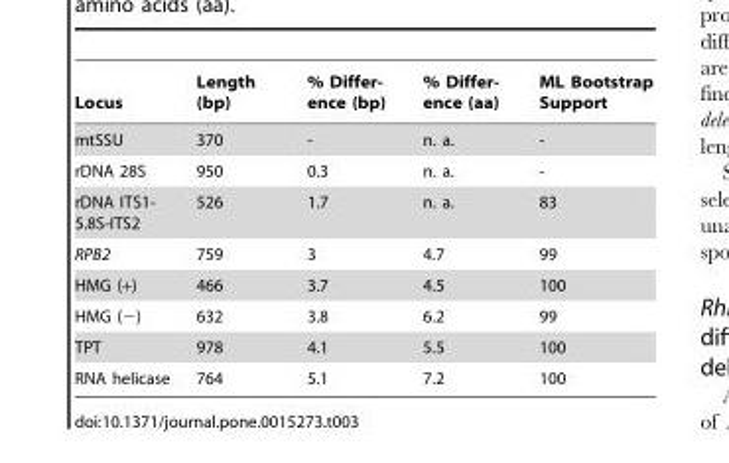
<table><thead><tr><td>Locus</td><td>Length (bp)</td><td>% Differ- ence (bp)</td><td>% Differ- ence (aa)</td><td>ML Bootstrap Support</td></tr></thead><tbody><tr><td>mtSSU</td><td>370</td><td>-</td><td>n. a.</td><td>-</td></tr><tr><td>rDNA 28S</td><td>950</td><td>0.3</td><td>n. a.</td><td>-</td></tr><tr><td>rDNA ITS1- 5.8S-ITS2</td><td>526</td><td>1.7</td><td>n. a.</td><td>83</td></tr><tr><td>RPB2</td><td>759</td><td>3</td><td>4.7</td><td>99</td></tr><tr><td>HMG (+)</td><td>466</td><td>3.7</td><td>4.5</td><td>100</td></tr><tr><td>HMG (−)</td><td>632</td><td>3.8</td><td>6.2</td><td>99</td></tr><tr><td>TPT</td><td>978</td><td>4.1</td><td>5.5</td><td>100</td></tr><tr><td>RNA helicase</td><td>764</td><td>5.1</td><td>7.2</td><td>100</td></tr></tbody></table>